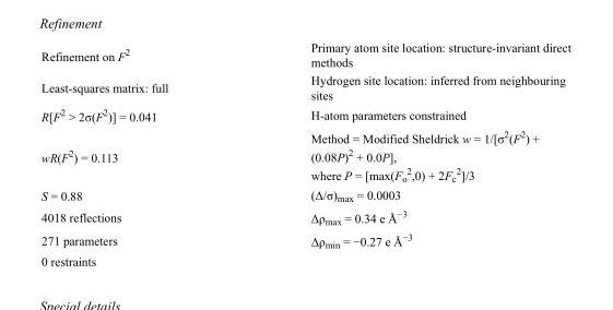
<table><tbody><tr><td>Refinement on F<sup>2</sup></td><td>Primary atom site location: structure-invariant direct methods</td></tr><tr><td>Least-squares matrix: full</td><td>Hydrogen site location: inferred from neighbouring sites</td></tr><tr><td>R[F<sup>2</sup> &gt; 2σ(F<sup>2</sup>)] = 0.041</td><td>H-atom parameters constrained</td></tr><tr><td>wR(F<sup>2</sup>) = 0.113</td><td>Method = Modified Sheldrick w = 1/[σ<sup>2</sup>(F<sup>2</sup>) + (0.08P)<sup>2</sup> + 0.0P], where P = [max(F<sub>o</sub> <sup>2</sup>,0) + 2F<sub>c</sub> <sup>2</sup>]/3</td></tr><tr><td>S = 0.88</td><td>(Δ/σ)<sub>max</sub> = 0.0003</td></tr><tr><td>4018 reflections</td><td>Δρ<sub>max</sub> = 0.34 e Å<sup>−3</sup></td></tr><tr><td>271 parameters</td><td>Δρ<sub>min</sub> = −0.27 e Å<sup>−3</sup></td></tr><tr><td>0 restraints</td><td></td></tr></tbody></table>